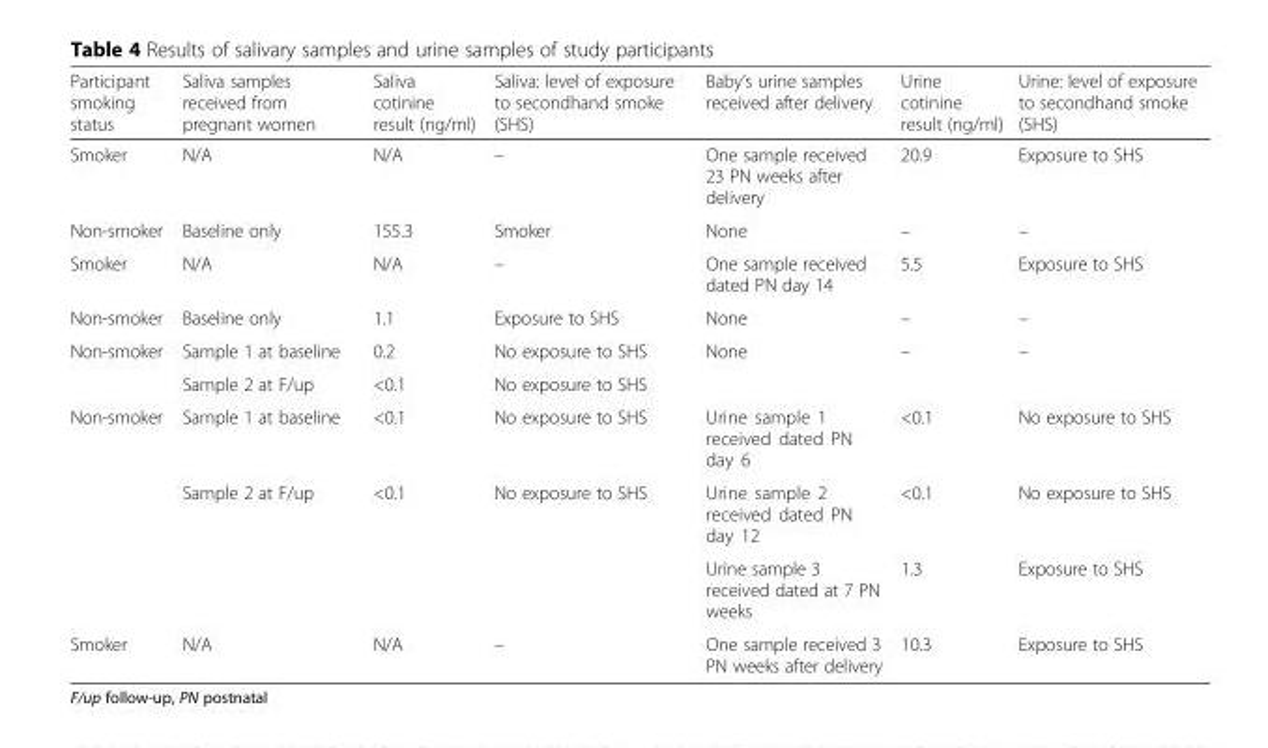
<table><thead><tr><td>Participant smoking status</td><td>Saliva samples received from pregnant women</td><td>Saliva cotinine result (ng/ml)</td><td>Saliva: level of exposure to secondhand smoke (SHS)</td><td>Baby’s urine samples received after delivery</td><td>Urine cotinine result (ng/ml)</td><td>Urine: level of exposure to secondhand smoke (SHS)</td></tr></thead><tbody><tr><td>Smoker</td><td>N/A</td><td>N/A</td><td>–</td><td>One sample received 23 PN weeks after delivery</td><td>20.9</td><td>Exposure to SHS</td></tr><tr><td>Non-smoker</td><td>Baseline only</td><td>155.3</td><td>Smoker</td><td>None</td><td>–</td><td>–</td></tr><tr><td>Smoker</td><td>N/A</td><td>N/A</td><td>–</td><td>One sample received dated PN day 14</td><td>5.5</td><td>Exposure to SHS</td></tr><tr><td>Non-smoker</td><td>Baseline only</td><td>1.1</td><td>Exposure to SHS</td><td>None</td><td>–</td><td>–</td></tr><tr><td rowspan="2">Non-smoker</td><td>Sample 1 at baseline</td><td>0.2</td><td>No exposure to SHS</td><td rowspan="2">None</td><td rowspan="2">–</td><td rowspan="2">–</td></tr><tr><td>Sample 2 at F/up</td><td>&lt;0.1</td><td>No exposure to SHS</td></tr><tr><td rowspan="3">Non-smoker</td><td>Sample 1 at baseline</td><td>&lt;0.1</td><td>No exposure to SHS</td><td>Urine sample 1 received dated PN day 6</td><td>&lt;0.1</td><td>No exposure to SHS</td></tr><tr><td rowspan="2">Sample 2 at F/up</td><td rowspan="2">&lt;0.1</td><td rowspan="2">No exposure to SHS</td><td>Urine sample 2 received dated PN day 12</td><td>&lt;0.1</td><td>No exposure to SHS</td></tr><tr><td>Urine sample 3 received dated at 7 PN weeks</td><td>1.3</td><td>Exposure to SHS</td></tr><tr><td>Smoker</td><td>N/A</td><td>N/A</td><td>–</td><td>One sample received 3 PN weeks after delivery</td><td>10.3</td><td>Exposure to SHS</td></tr></tbody></table>